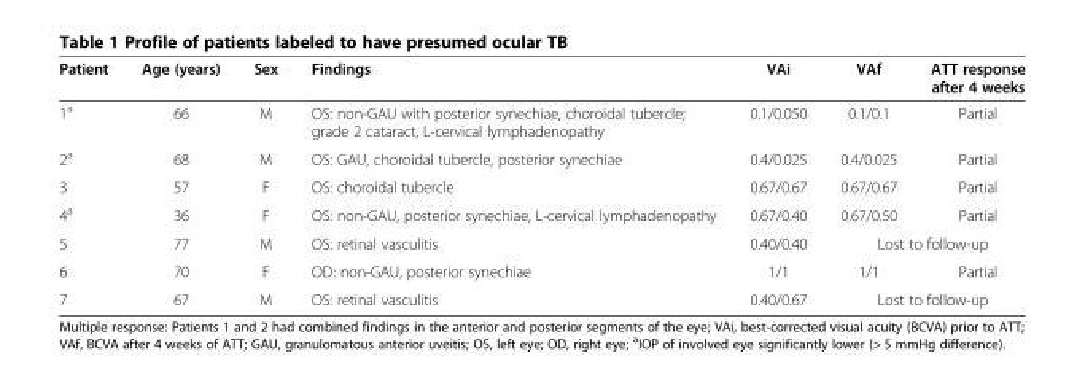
<table><thead><tr><td>Patient</td><td>Age (years)</td><td>Sex</td><td>Findings</td><td>VAi</td><td>VAf</td><td>ATT response after 4 weeks</td></tr></thead><tbody><tr><td>1<sup>a</sup></td><td>66</td><td>M</td><td>OS: non-GAU with posterior synechiae, choroidal tubercle; grade 2 cataract, L-cervical lymphadenopathy</td><td>0.1/0.050</td><td>0.1/0.1</td><td>Partial</td></tr><tr><td>2<sup>a</sup></td><td>68</td><td>M</td><td>OS: GAU, choroidal tubercle, posterior synechiae</td><td>0.4/0.025</td><td>0.4/0.025</td><td>Partial</td></tr><tr><td>3</td><td>57</td><td>F</td><td>OS: choroidal tubercle</td><td>0.67/0.67</td><td>0.67/0.67</td><td>Partial</td></tr><tr><td>4<sup>a</sup></td><td>36</td><td>F</td><td>OS: non-GAU, posterior synechiae, L-cervical lymphadenopathy</td><td>0.67/0.40</td><td>0.67/0.50</td><td>Partial</td></tr><tr><td>5</td><td>77</td><td>M</td><td>OS: retinal vasculitis</td><td>0.40/0.40</td><td colspan="2">Lost to follow-up</td></tr><tr><td>6</td><td>70</td><td>F</td><td>OD: non-GAU, posterior synechiae</td><td>1/1</td><td>1/1</td><td>Partial</td></tr><tr><td>7</td><td>67</td><td>M</td><td>OS: retinal vasculitis</td><td>0.40/0.67</td><td colspan="2">Lost to follow-up</td></tr></tbody></table>